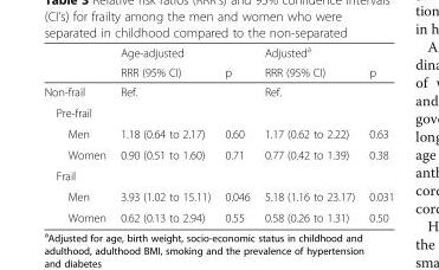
<table><thead><tr><td rowspan="2"></td><td rowspan="2">Age-adjusted RRR (95% CI)</td><td rowspan="2">p</td><td rowspan="2">Adjusted<sup>a</sup> RRR (95% CI)</td><td rowspan="2">p</td></tr><tr></tr></thead><tbody><tr><td>Non-frail</td><td>Ref.</td><td></td><td>Ref.</td><td></td></tr><tr><td colspan="5">Pre-frail</td></tr><tr><td>Men</td><td>1.18 (0.64 to 2.17)</td><td>0.60</td><td>1.17 (0.62 to 2.22)</td><td>0.63</td></tr><tr><td>Women</td><td>0.90 (0.51 to 1.60)</td><td>0.71</td><td>0.77 (0.42 to 1.39)</td><td>0.38</td></tr><tr><td colspan="5">Frail</td></tr><tr><td>Men</td><td>3.93 (1.02 to 15.11)</td><td>0.046</td><td>5.18 (1.16 to 23.17)</td><td>0.031</td></tr><tr><td>Women</td><td>0.62 (0.13 to 2.94)</td><td>0.55</td><td>0.58 (0.26 to 1.31)</td><td>0.50</td></tr></tbody></table>